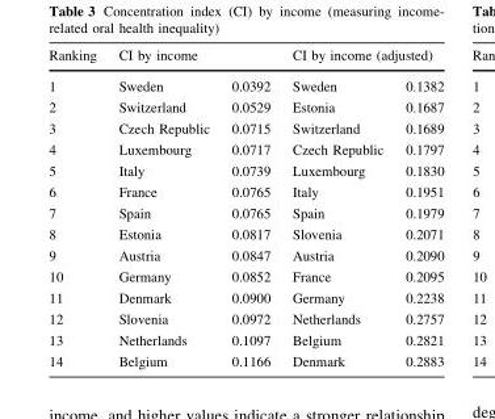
<table><thead><tr><td rowspan="2">Ranking 1</td><td colspan="2">CI by income</td><td colspan="2">CI by income (adjusted)</td></tr><tr><td>Sweden</td><td>0.0392</td><td>Sweden</td><td>0.1382</td></tr></thead><tbody><tr><td>2</td><td>Switzerland</td><td>0.0529</td><td>Estonia</td><td>0.1687</td></tr><tr><td>3</td><td>Czech Republic</td><td>0.0715</td><td>Switzerland</td><td>0.1689</td></tr><tr><td>4</td><td>Luxembourg</td><td>0.0717</td><td>Czech Republic</td><td>0.1797</td></tr><tr><td>5</td><td>Italy</td><td>0.0739</td><td>Luxembourg</td><td>0.1830</td></tr><tr><td>6</td><td>France</td><td>0.0765</td><td>Italy</td><td>0.1951</td></tr><tr><td>7</td><td>Spain</td><td>0.0765</td><td>Spain</td><td>0.1979</td></tr><tr><td>8</td><td>Estonia</td><td>0.0817</td><td>Slovenia</td><td>0.2071</td></tr><tr><td>9</td><td>Austria</td><td>0.0847</td><td>Austria</td><td>0.2090</td></tr><tr><td>10</td><td>Germany</td><td>0.0852</td><td>France</td><td>0.2095</td></tr><tr><td>11</td><td>Denmark</td><td>0.0900</td><td>Germany</td><td>0.2238</td></tr><tr><td>12</td><td>Slovenia</td><td>0.0972</td><td>Netherlands</td><td>0.2757</td></tr><tr><td>13</td><td>Netherlands</td><td>0.1097</td><td>Belgium</td><td>0.2821</td></tr><tr><td>14</td><td>Belgium</td><td>0.1166</td><td>Denmark</td><td>0.2883</td></tr></tbody></table>